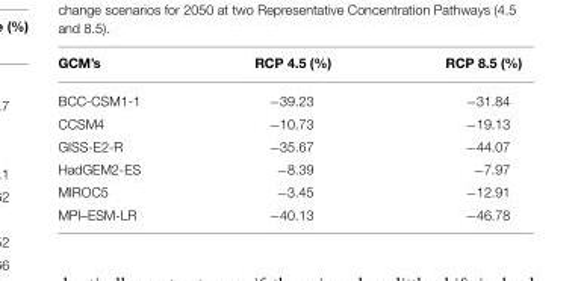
<table><thead><tr><td>GCM’s</td><td>RCP 4.5 (%)</td><td>RCP 8.5 (%)</td></tr></thead><tbody><tr><td>BCC-CSM1-1</td><td>−39.23</td><td>−31.84</td></tr><tr><td>CCSM4</td><td>−10.73</td><td>−19.13</td></tr><tr><td>GISS-E2-R</td><td>−35.67</td><td>−44.07</td></tr><tr><td>HadGEM2-ES</td><td>−8.39</td><td>−7.97</td></tr><tr><td>MIROC5</td><td>−3.45</td><td>−12.91</td></tr><tr><td>MPI–ESM-LR</td><td>−40.13</td><td>−46.78</td></tr></tbody></table>